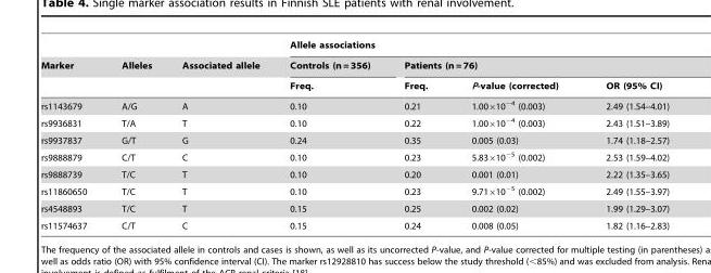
<table><thead><tr><td rowspan="3">Marker</td><td rowspan="3">Alleles</td><td rowspan="3">Associated allele</td><td colspan="4">Allele associations</td></tr><tr><td rowspan="2">Controls (n = 356) Freq.</td><td colspan="3">Patients (n = 76)</td></tr><tr><td>Freq.</td><td>P-value (corrected)</td><td>OR (95% CI)</td></tr></thead><tbody><tr><td>rs1143679</td><td>A/G</td><td>A</td><td>0.10</td><td>0.21</td><td>1.00×10<sup>−4</sup> (0.003)</td><td>2.49 (1.54–4.01)</td></tr><tr><td>rs9936831</td><td>T/A</td><td>T</td><td>0.10</td><td>0.22</td><td>1.00×10<sup>−4</sup> (0.003)</td><td>2.43 (1.51–3.89)</td></tr><tr><td>rs9937837</td><td>G/T</td><td>G</td><td>0.24</td><td>0.35</td><td>0.005 (0.03)</td><td>1.74 (1.18–2.57)</td></tr><tr><td>rs9888879</td><td>C/T</td><td>C</td><td>0.10</td><td>0.23</td><td>5.83×10<sup>−5</sup> (0.002)</td><td>2.53 (1.59–4.02)</td></tr><tr><td>rs9888739</td><td>T/C</td><td>T</td><td>0.10</td><td>0.20</td><td>0.001 (0.01)</td><td>2.22 (1.35–3.65)</td></tr><tr><td>rs11860650</td><td>T/C</td><td>T</td><td>0.10</td><td>0.23</td><td>9.71×10<sup>−5</sup> (0.002)</td><td>2.49 (1.55–3.97)</td></tr><tr><td>rs4548893</td><td>T/C</td><td>T</td><td>0.15</td><td>0.25</td><td>0.002 (0.02)</td><td>1.99 (1.29–3.07)</td></tr><tr><td>rs11574637</td><td>C/T</td><td>C</td><td>0.15</td><td>0.24</td><td>0.008 (0.05)</td><td>1.82 (1.16–2.83)</td></tr></tbody></table>